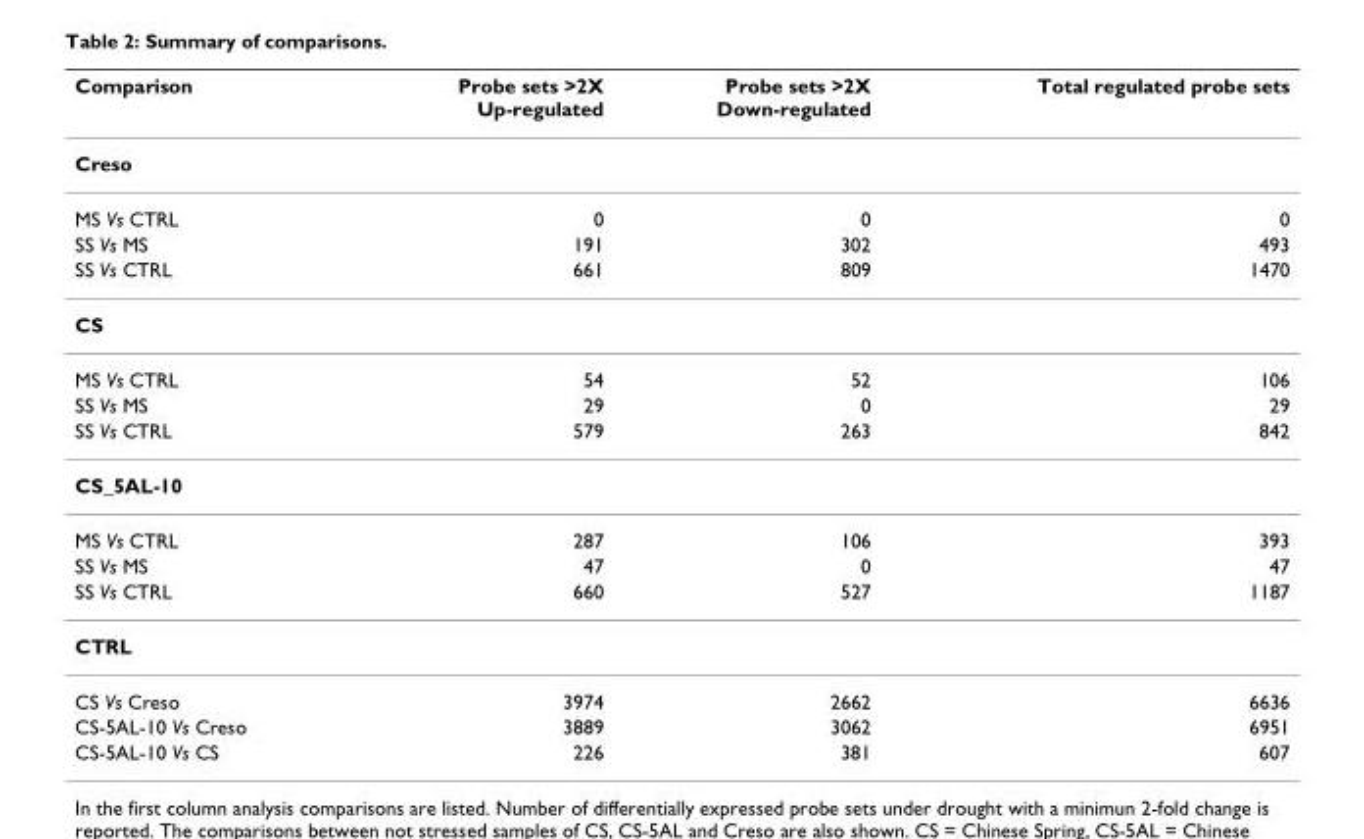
<table><thead><tr><td>Comparison</td><td>Probe sets &gt;2X Up-regulated</td><td>Probe sets &gt;2X Down-regulated</td><td>Total regulated probe sets</td></tr></thead><tbody><tr><td colspan="4">Creso</td></tr><tr><td>MS Vs CTRL</td><td>0</td><td>0</td><td>0</td></tr><tr><td>SS Vs MS</td><td>191</td><td>302</td><td>493</td></tr><tr><td>SS Vs CTRL</td><td>661</td><td>809</td><td>1470</td></tr><tr><td colspan="4">CS</td></tr><tr><td>MS Vs CTRL</td><td>54</td><td>52</td><td>106</td></tr><tr><td>SS Vs MS</td><td>29</td><td>0</td><td>29</td></tr><tr><td>SS Vs CTRL</td><td>579</td><td>263</td><td>842</td></tr><tr><td colspan="4">CS_5AL-10</td></tr><tr><td>MS Vs CTRL</td><td>287</td><td>106</td><td>393</td></tr><tr><td>SS Vs MS</td><td>47</td><td>0</td><td>47</td></tr><tr><td>SS Vs CTRL</td><td>660</td><td>527</td><td>1187</td></tr><tr><td colspan="4">CTRL</td></tr><tr><td>CS Vs Creso</td><td>3974</td><td>2662</td><td>6636</td></tr><tr><td>CS-5AL-10 Vs Creso</td><td>3889</td><td>3062</td><td>6951</td></tr><tr><td>CS-5AL-10 Vs CS</td><td>226</td><td>381</td><td>607</td></tr></tbody></table>